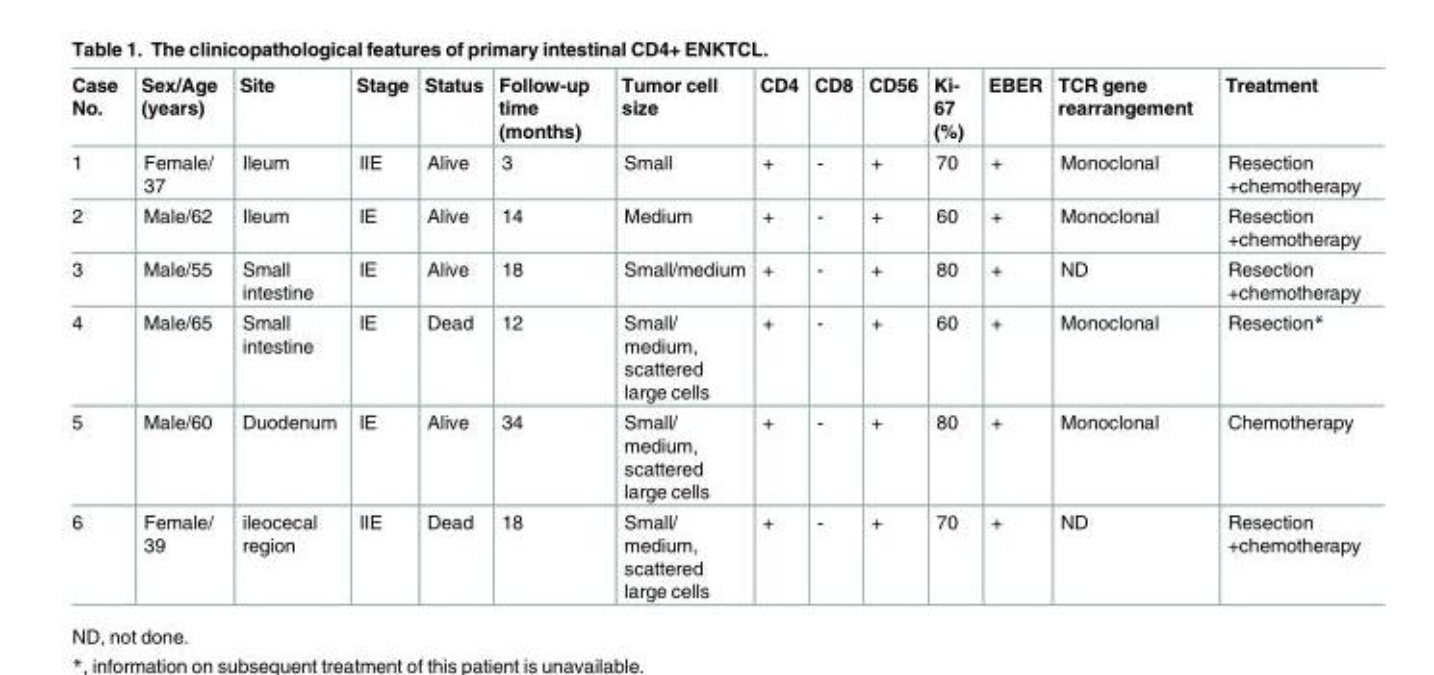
<table><thead><tr><td>Case No.</td><td>Sex/Age (years)</td><td>Site</td><td>Stage</td><td>Status</td><td>Follow-up time (months)</td><td>Tumor cell size</td><td>CD4</td><td>CD8</td><td>CD56</td><td>Ki- 67 (%)</td><td>EBER</td><td>TCR gene rearrangement</td><td>Treatment</td></tr></thead><tbody><tr><td>1</td><td>Female/ 37</td><td>Ileum</td><td>IIE</td><td>Alive</td><td>3</td><td>Small</td><td>+</td><td>-</td><td>+</td><td>70</td><td>+</td><td>Monoclonal</td><td>Resection +chemotherapy</td></tr><tr><td>2</td><td>Male/62</td><td>Ileum</td><td>IE</td><td>Alive</td><td>14</td><td>Medium</td><td>+</td><td>-</td><td>+</td><td>60</td><td>+</td><td>Monoclonal</td><td>Resection +chemotherapy</td></tr><tr><td>3</td><td>Male/55</td><td>Small intestine</td><td>IE</td><td>Alive</td><td>18</td><td>Small/medium</td><td>+</td><td>-</td><td>+</td><td>80</td><td>+</td><td>ND</td><td>Resection +chemotherapy</td></tr><tr><td>4</td><td>Male/65</td><td>Small intestine</td><td>IE</td><td>Dead</td><td>12</td><td>Small/ medium, scattered large cells</td><td>+</td><td>-</td><td>+</td><td>60</td><td>+</td><td>Monoclonal</td><td>Resection*</td></tr><tr><td>5</td><td>Male/60</td><td>Duodenum</td><td>IE</td><td>Alive</td><td>34</td><td>Small/ medium, scattered large cells</td><td>+</td><td>-</td><td>+</td><td>80</td><td>+</td><td>Monoclonal</td><td>Chemotherapy</td></tr><tr><td>6</td><td>Female/ 39</td><td>ileocecal region</td><td>IIE</td><td>Dead</td><td>18</td><td>Small/ medium, scattered large cells</td><td>+</td><td>-</td><td>+</td><td>70</td><td>+</td><td>ND</td><td>Resection +chemotherapy</td></tr></tbody></table>